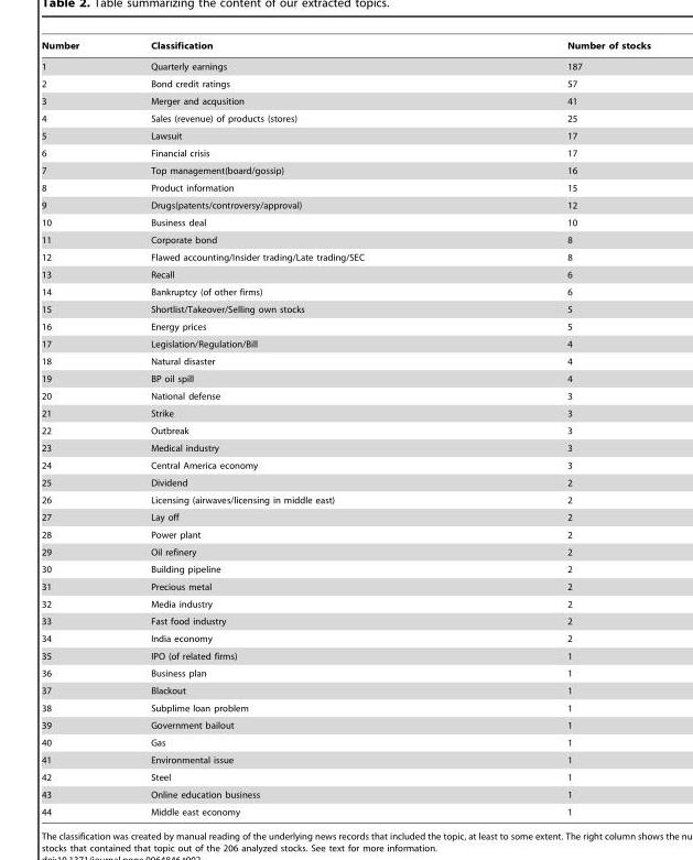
<table><thead><tr><td>Number</td><td>Classification</td><td>Number of stocks</td></tr></thead><tbody><tr><td>1</td><td>Quarterly earnings</td><td>187</td></tr><tr><td>2</td><td>Bond credit ratings</td><td>57</td></tr><tr><td>3</td><td>Merger and acqusition</td><td>41</td></tr><tr><td>4</td><td>Sales (revenue) of products (stores)</td><td>25</td></tr><tr><td>5</td><td>Lawsuit</td><td>17</td></tr><tr><td>6</td><td>Financial crisis</td><td>17</td></tr><tr><td>7</td><td>Top management(board/gossip)</td><td>16</td></tr><tr><td>8</td><td>Product information</td><td>15</td></tr><tr><td>9</td><td>Drugs(patents/controversy/approval)</td><td>12</td></tr><tr><td>10</td><td>Business deal</td><td>10</td></tr><tr><td>11</td><td>Corporate bond</td><td>8</td></tr><tr><td>12</td><td>Flawed accounting/Insider trading/Late trading/SEC</td><td>8</td></tr><tr><td>13</td><td>Recall</td><td>6</td></tr><tr><td>14</td><td>Bankruptcy (of other firms)</td><td>6</td></tr><tr><td>15</td><td>Shortlist/Takeover/Selling own stocks</td><td>5</td></tr><tr><td>16</td><td>Energy prices</td><td>5</td></tr><tr><td>17</td><td>Legislation/Regulation/Bill</td><td>4</td></tr><tr><td>18</td><td>Natural disaster</td><td>4</td></tr><tr><td>19</td><td>BP oil spill</td><td>4</td></tr><tr><td>20</td><td>National defense</td><td>3</td></tr><tr><td>21</td><td>Strike</td><td>3</td></tr><tr><td>22</td><td>Outbreak</td><td>3</td></tr><tr><td>23</td><td>Medical industry</td><td>3</td></tr><tr><td>24</td><td>Central America economy</td><td>3</td></tr><tr><td>25</td><td>Dividend</td><td>2</td></tr><tr><td>26</td><td>Licensing (airwaves/licensing in middle east)</td><td>2</td></tr><tr><td>27</td><td>Lay off</td><td>2</td></tr><tr><td>28</td><td>Power plant</td><td>2</td></tr><tr><td>29</td><td>Oil refinery</td><td>2</td></tr><tr><td>30</td><td>Building pipeline</td><td>2</td></tr><tr><td>31</td><td>Precious metal</td><td>2</td></tr><tr><td>32</td><td>Media industry</td><td>2</td></tr><tr><td>33</td><td>Fast food industry</td><td>2</td></tr><tr><td>34</td><td>India economy</td><td>2</td></tr><tr><td>35</td><td>IPO (of related firms)</td><td>1</td></tr><tr><td>36</td><td>Business plan</td><td>1</td></tr><tr><td>37</td><td>Blackout</td><td>1</td></tr><tr><td>38</td><td>Subplime loan problem</td><td>1</td></tr><tr><td>39</td><td>Government bailout</td><td>1</td></tr><tr><td>40</td><td>Gas</td><td>1</td></tr><tr><td>41</td><td>Environmental issue</td><td>1</td></tr><tr><td>42</td><td>Steel</td><td>1</td></tr><tr><td>43</td><td>Online education business</td><td>1</td></tr><tr><td>44</td><td>Middle east economy</td><td>1</td></tr></tbody></table>